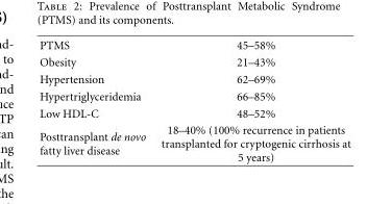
<table><tbody><tr><td>PTMS</td><td>45–58%</td></tr><tr><td>Obesity</td><td>21–43%</td></tr><tr><td>Hypertension</td><td>62–69%</td></tr><tr><td>Hypertriglyceridemia</td><td>66–85%</td></tr><tr><td>Low HDL-C</td><td>48–52%</td></tr><tr><td>Posttransplant de novo fatty liver disease</td><td>18–40% (100% recurrence in patients transplanted for cryptogenic cirrhosis at 5 years)</td></tr></tbody></table>